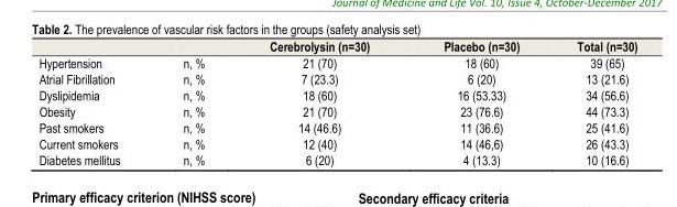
<table><thead><tr><td></td><td></td><td>Cerebrolysin (n=30)</td><td>Placebo (n=30)</td><td>Total (n=30)</td></tr></thead><tbody><tr><td>Hypertension</td><td>n, %</td><td>21 (70)</td><td>18 (60)</td><td>39 (65)</td></tr><tr><td>Atrial Fibrillation</td><td>n, %</td><td>7 (23.3)</td><td>6 (20)</td><td>13 (21.6)</td></tr><tr><td>Dyslipidemia</td><td>n, %</td><td>18 (60)</td><td>16 (53.33)</td><td>34 (56.6)</td></tr><tr><td>Obesity</td><td>n, %</td><td>21 (70)</td><td>23 (76.6)</td><td>44 (73.3)</td></tr><tr><td>Past smokers</td><td>n, %</td><td>14 (46.6)</td><td>11 (36.6)</td><td>25 (41.6)</td></tr><tr><td>Current smokers</td><td>n, %</td><td>12 (40)</td><td>14 (46,6)</td><td>26 (43.3)</td></tr><tr><td>Diabetes mellitus</td><td>n, %</td><td>6 (20)</td><td>4 (13.3)</td><td>10 (16.6)</td></tr></tbody></table>